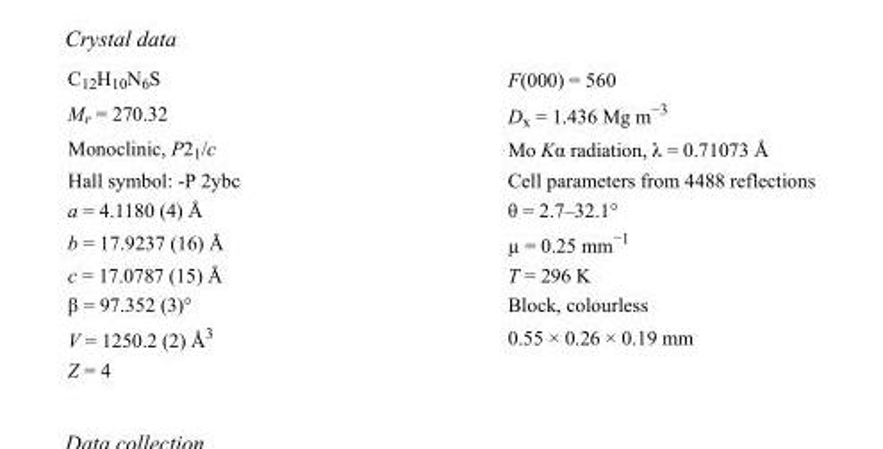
<table><tbody><tr><td>C<sub>12</sub>H<sub>10</sub>N<sub>6</sub>S</td><td>F(000) = 560</td></tr><tr><td>M<sub>r</sub> = 270.32</td><td>D<sub>x</sub> = 1.436 Mg m<sup>−3</sup></td></tr><tr><td>Monoclinic, P2<sub>1</sub>/c</td><td>Mo Kα radiation, λ = 0.71073 Å</td></tr><tr><td>Hall symbol: -P 2ybc</td><td>Cell parameters from 4488 reflections</td></tr><tr><td>a = 4.1180 (4) Å</td><td>θ = 2.7–32.1°</td></tr><tr><td>b = 17.9237 (16) Å</td><td>µ = 0.25 mm<sup>−1</sup></td></tr><tr><td>c = 17.0787 (15) Å</td><td>T = 296 K</td></tr><tr><td>β = 97.352 (3)°</td><td>Block, colourless</td></tr><tr><td>V = 1250.2 (2) Å<sup>3</sup></td><td>0.55 × 0.26 × 0.19 mm</td></tr><tr><td>Z = 4</td><td></td></tr></tbody></table>